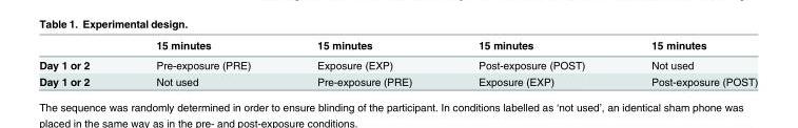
<table><thead><tr><td></td><td>15 minutes</td><td>15 minutes</td><td>15 minutes</td><td>15 minutes</td></tr></thead><tbody><tr><td>Day 1 or 2</td><td>Pre-exposure (PRE)</td><td>Exposure (EXP)</td><td>Post-exposure (POST)</td><td>Not used</td></tr><tr><td>Day 1 or 2</td><td>Not used</td><td>Pre-exposure (PRE)</td><td>Exposure (EXP)</td><td>Post-exposure (POST)</td></tr></tbody></table>